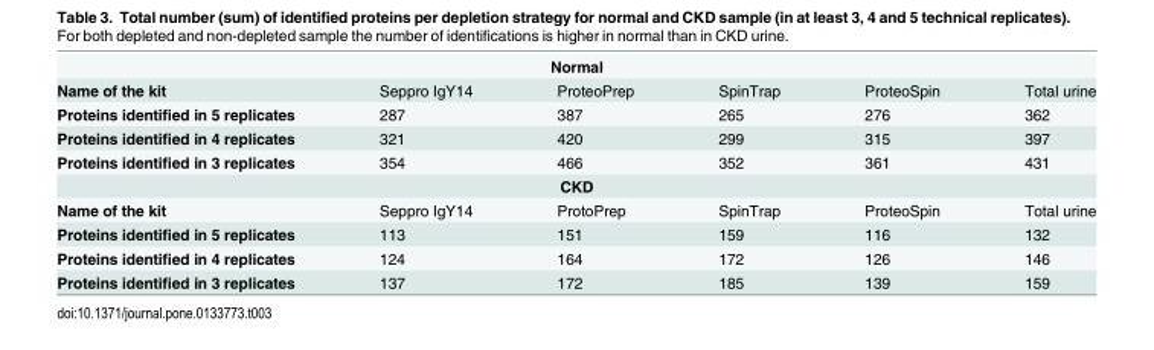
<table><tbody><tr><td colspan="6">Normal</td></tr><tr><td>Name of the kit</td><td>Seppro IgY14</td><td>ProteoPrep</td><td>SpinTrap</td><td>ProteoSpin</td><td>Total urine</td></tr><tr><td>Proteins identified in 5 replicates</td><td>287</td><td>387</td><td>265</td><td>276</td><td>362</td></tr><tr><td>Proteins identified in 4 replicates</td><td>321</td><td>420</td><td>299</td><td>315</td><td>397</td></tr><tr><td>Proteins identified in 3 replicates</td><td>354</td><td>466</td><td>352</td><td>361</td><td>431</td></tr><tr><td colspan="6">CKD</td></tr><tr><td>Name of the kit</td><td>Seppro IgY14</td><td>ProtoPrep</td><td>SpinTrap</td><td>ProteoSpin</td><td>Total urine</td></tr><tr><td>Proteins identified in 5 replicates</td><td>113</td><td>151</td><td>159</td><td>116</td><td>132</td></tr><tr><td>Proteins identified in 4 replicates</td><td>124</td><td>164</td><td>172</td><td>126</td><td>146</td></tr><tr><td>Proteins identified in 3 replicates</td><td>137</td><td>172</td><td>185</td><td>139</td><td>159</td></tr></tbody></table>